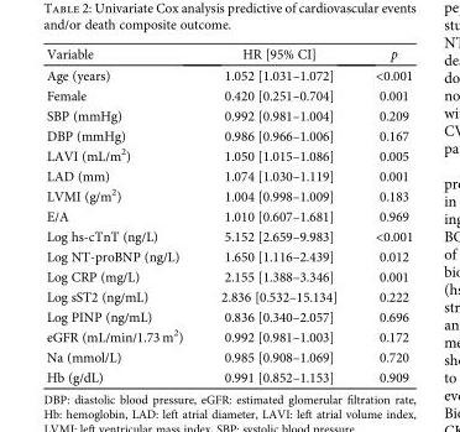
<table><thead><tr><td>Variable</td><td>HR [95% CI]</td><td>p</td></tr></thead><tbody><tr><td>Age (years)</td><td>1.052 [1.031–1.072]</td><td>&lt;0.001</td></tr><tr><td>Female</td><td>0.420 [0.251–0.704]</td><td>0.001</td></tr><tr><td>SBP (mmHg)</td><td>0.992 [0.981–1.004]</td><td>0.209</td></tr><tr><td>DBP (mmHg)</td><td>0.986 [0.966–1.006]</td><td>0.167</td></tr><tr><td>LAVI (mL/m<sup>2</sup>)</td><td>1.050 [1.015–1.086]</td><td>0.005</td></tr><tr><td>LAD (mm)</td><td>1.074 [1.030–1.119]</td><td>0.001</td></tr><tr><td>LVMI (g/m<sup>2</sup>)</td><td>1.004 [0.998–1.009]</td><td>0.183</td></tr><tr><td>E/A</td><td>1.010 [0.607–1.681]</td><td>0.969</td></tr><tr><td>Log hs-cTnT (ng/L)</td><td>5.152 [2.659–9.983]</td><td>&lt;0.001</td></tr><tr><td>Log NT-proBNP (ng/L)</td><td>1.650 [1.116–2.439]</td><td>0.012</td></tr><tr><td>Log CRP (mg/L)</td><td>2.155 [1.388–3.346]</td><td>0.001</td></tr><tr><td>Log sST2 (ng/mL)</td><td>2.836 [0.532–15.134]</td><td>0.222</td></tr><tr><td>Log PINP (ng/mL)</td><td>0.836 [0.340–2.057]</td><td>0.696</td></tr><tr><td>eGFR (mL/min/1.73 m<sup>2</sup>)</td><td>0.992 [0.981–1.003]</td><td>0.172</td></tr><tr><td>Na (mmol/L)</td><td>0.985 [0.908–1.069]</td><td>0.720</td></tr><tr><td>Hb (g/dL)</td><td>0.991 [0.852–1.153]</td><td>0.909</td></tr></tbody></table>